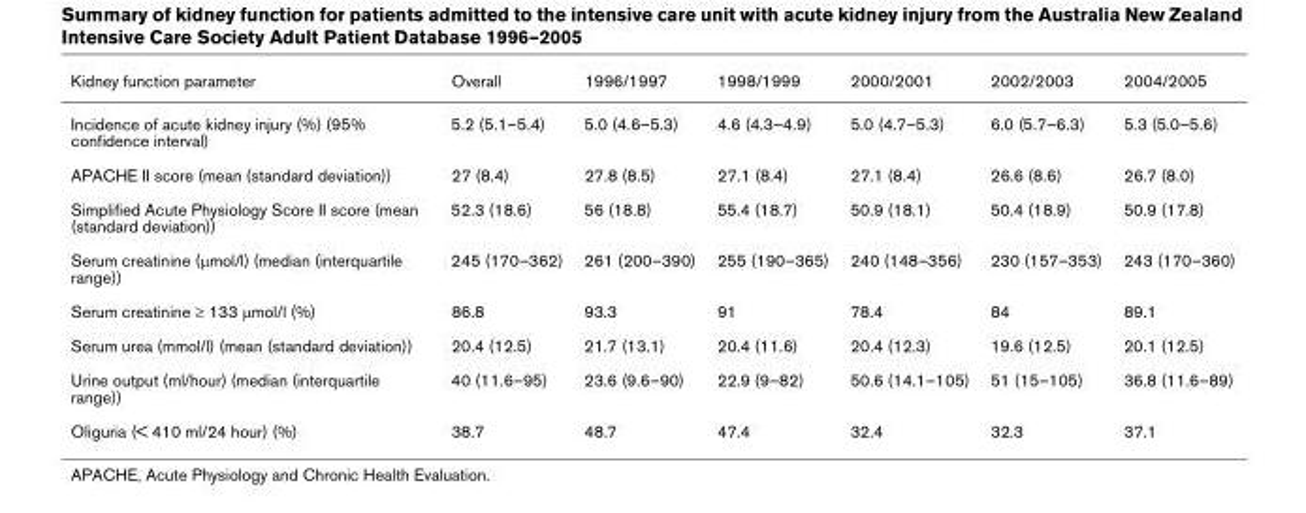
<table><thead><tr><td>Kidney function parameter</td><td>Overall</td><td>1996/1997</td><td>1998/1999</td><td>2000/2001</td><td>2002/2003</td><td>2004/2005</td></tr></thead><tbody><tr><td>Incidence of acute kidney injury (%) (95% confidence interval)</td><td>5.2 (5.1–5.4)</td><td>5.0 (4.6–5.3)</td><td>4.6 (4.3–4.9)</td><td>5.0 (4.7–5.3)</td><td>6.0 (5.7–6.3)</td><td>5.3 (5.0–5.6)</td></tr><tr><td>APACHE II score (mean (standard deviation))</td><td>27 (8.4)</td><td>27.8 (8.5)</td><td>27.1 (8.4)</td><td>27.1 (8.4)</td><td>26.6 (8.6)</td><td>26.7 (8.0)</td></tr><tr><td>Simplified Acute Physiology Score II score (mean (standard deviation))</td><td>52.3 (18.6)</td><td>56 (18.8)</td><td>55.4 (18.7)</td><td>50.9 (18.1)</td><td>50.4 (18.9)</td><td>50.9 (17.8)</td></tr><tr><td>Serum creatinine (μmol/l) (median (interquartile range))</td><td>245 (170–362)</td><td>261 (200–390)</td><td>255 (190–365)</td><td>240 (148–356)</td><td>230 (157–353)</td><td>243 (170–360)</td></tr><tr><td>Serum creatinine ≥ 133 μmol/l (%)</td><td>86.8</td><td>93.3</td><td>91</td><td>78.4</td><td>84</td><td>89.1</td></tr><tr><td>Serum urea (mmol/l) (mean (standard deviation))</td><td>20.4 (12.5)</td><td>21.7 (13.1)</td><td>20.4 (11.6)</td><td>20.4 (12.3)</td><td>19.6 (12.5)</td><td>20.1 (12.5)</td></tr><tr><td>Urine output (ml/hour) (median (interquartile range))</td><td>40 (11.6–95)</td><td>23.6 (9.6–90)</td><td>22.9 (9–82)</td><td>50.6 (14.1–105)</td><td>51 (15–105)</td><td>36.8 (11.6–89)</td></tr><tr><td>Oliguria (&lt; 410 ml/24 hour) (%)</td><td>38.7</td><td>48.7</td><td>47.4</td><td>32.4</td><td>32.3</td><td>37.1</td></tr></tbody></table>